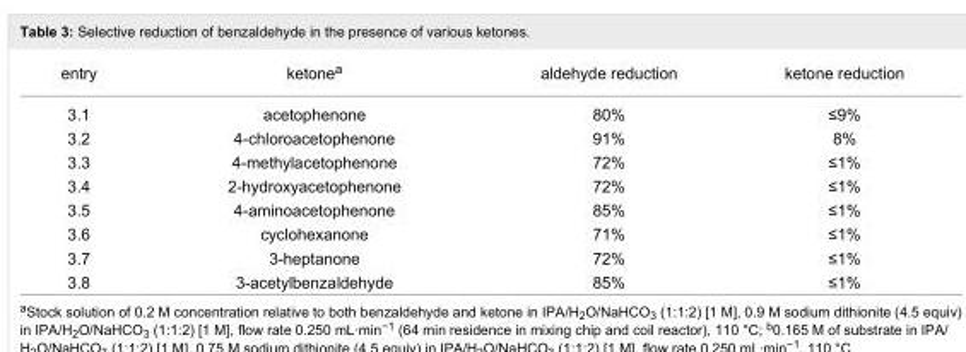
<table><tbody><tr><td>entry</td><td>ketone<sup>a</sup></td><td>aldehyde reduction</td><td>ketone reduction</td></tr><tr><td>3.1</td><td>acetophenone</td><td>80%</td><td>≤9%</td></tr><tr><td>3.2</td><td>4-chloroacetophenone</td><td>91%</td><td>8%</td></tr><tr><td>3.3</td><td>4-methylacetophenone</td><td>72%</td><td>≤1%</td></tr><tr><td>3.4</td><td>2-hydroxyacetophenone</td><td>72%</td><td>≤1%</td></tr><tr><td>3.5</td><td>4-aminoacetophenone</td><td>85%</td><td>≤1%</td></tr><tr><td>3.6</td><td>cyclohexanone</td><td>71%</td><td>≤1%</td></tr><tr><td>3.7</td><td>3-heptanone</td><td>72%</td><td>≤1%</td></tr><tr><td>3.8</td><td>3-acetylbenzaldehyde</td><td>85%</td><td>≤1%</td></tr></tbody></table>